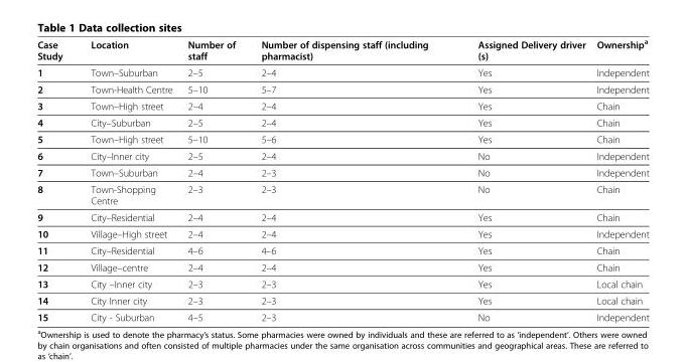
<table><thead><tr><td>Case Study</td><td>Location</td><td>Number of staff</td><td>Number of dispensing staff (including pharmacist)</td><td>Assigned Delivery driver (s)</td><td>Ownership<sup>a</sup></td></tr></thead><tbody><tr><td>1</td><td>Town–Suburban</td><td>2–5</td><td>2–4</td><td>Yes</td><td>Independent</td></tr><tr><td>2</td><td>Town-Health Centre</td><td>5–10</td><td>5–7</td><td>Yes</td><td>Independent</td></tr><tr><td>3</td><td>Town–High street</td><td>2–4</td><td>2–4</td><td>Yes</td><td>Chain</td></tr><tr><td>4</td><td>City–Suburban</td><td>2–5</td><td>2–4</td><td>Yes</td><td>Chain</td></tr><tr><td>5</td><td>Town–High street</td><td>5–10</td><td>5–6</td><td>Yes</td><td>Chain</td></tr><tr><td>6</td><td>City–Inner city</td><td>2–5</td><td>2–4</td><td>No</td><td>Independent</td></tr><tr><td>7</td><td>Town–Suburban</td><td>2–4</td><td>2–3</td><td>No</td><td>Independent</td></tr><tr><td>8</td><td>Town-Shopping Centre</td><td>2–3</td><td>2–3</td><td>No</td><td>Chain</td></tr><tr><td>9</td><td>City–Residential</td><td>2–4</td><td>2–4</td><td>Yes</td><td>Chain</td></tr><tr><td>10</td><td>Village–High street</td><td>2–4</td><td>2–4</td><td>Yes</td><td>Independent</td></tr><tr><td>11</td><td>City–Residential</td><td>4–6</td><td>4–6</td><td>Yes</td><td>Chain</td></tr><tr><td>12</td><td>Village–centre</td><td>2–4</td><td>2–4</td><td>Yes</td><td>Chain</td></tr><tr><td>13</td><td>City –Inner city</td><td>2–3</td><td>2–3</td><td>Yes</td><td>Local chain</td></tr><tr><td>14</td><td>City Inner city</td><td>2–3</td><td>2–3</td><td>Yes</td><td>Local chain</td></tr><tr><td>15</td><td>City - Suburban</td><td>4–5</td><td>2–3</td><td>No</td><td>Independent</td></tr></tbody></table>